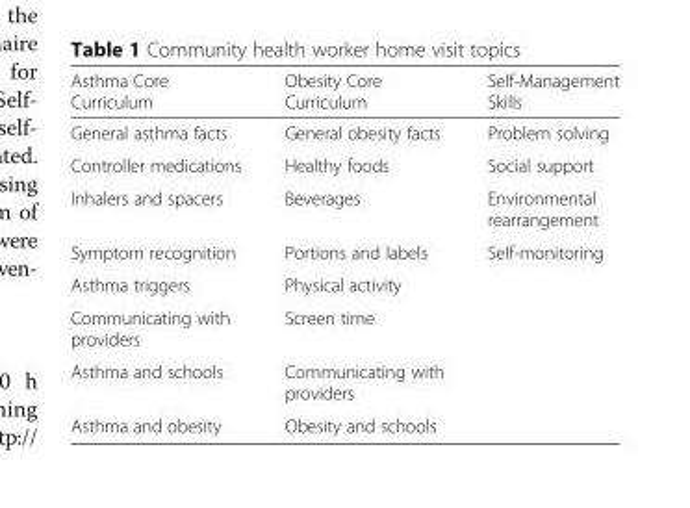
<table><thead><tr><td>Asthma Core Curriculum</td><td>Obesity Core Curriculum</td><td>Self-Management Skills</td></tr></thead><tbody><tr><td>General asthma facts</td><td>General obesity facts</td><td>Problem solving</td></tr><tr><td>Controller medications</td><td>Healthy foods</td><td>Social support</td></tr><tr><td>Inhalers and spacers</td><td>Beverages</td><td>Environmental rearrangement</td></tr><tr><td>Symptom recognition</td><td>Portions and labels</td><td>Self-monitoring</td></tr><tr><td>Asthma triggers</td><td>Physical activity</td><td></td></tr><tr><td>Communicating with providers</td><td>Screen time</td><td></td></tr><tr><td>Asthma and schools</td><td>Communicating with providers</td><td></td></tr><tr><td>Asthma and obesity</td><td>Obesity and schools</td><td></td></tr></tbody></table>